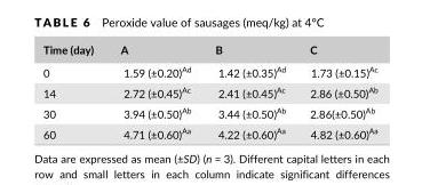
<table><thead><tr><td>Time (day)</td><td>A</td><td>B</td><td>C</td></tr></thead><tbody><tr><td>0</td><td>1.59 (±0.20)<sup>Ad</sup></td><td>1.42 (±0.35)<sup>Ad</sup></td><td>1.73 (±0.15)<sup>Ac</sup></td></tr><tr><td>14</td><td>2.72 (±0.45)<sup>Ac</sup></td><td>2.41 (±0.45)<sup>Ac</sup></td><td>2.86 (±0.50)<sup>Ab</sup></td></tr><tr><td>30</td><td>3.94 (±0.50)<sup>Ab</sup></td><td>3.44 (±0.50)<sup>Ab</sup></td><td>2.86(±0.50)<sup>Ab</sup></td></tr><tr><td>60</td><td>4.71 (±0.60)<sup>Aa</sup></td><td>4.22 (±0.60)<sup>Aa</sup></td><td>4.82 (±0.60)<sup>Aa</sup></td></tr></tbody></table>